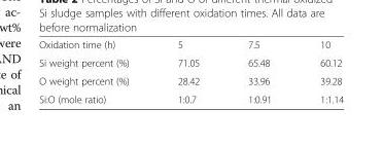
<table><tbody><tr><td>Oxidation time (h)</td><td>5</td><td>7.5</td><td>10</td></tr><tr><td>Si weight percent (%)</td><td>71.05</td><td>65.48</td><td>60.12</td></tr><tr><td>O weight percent (%)</td><td>28.42</td><td>33.96</td><td>39.28</td></tr><tr><td>Si:O (mole ratio)</td><td>1:0.7</td><td>1:0.91</td><td>1:1.14</td></tr></tbody></table>